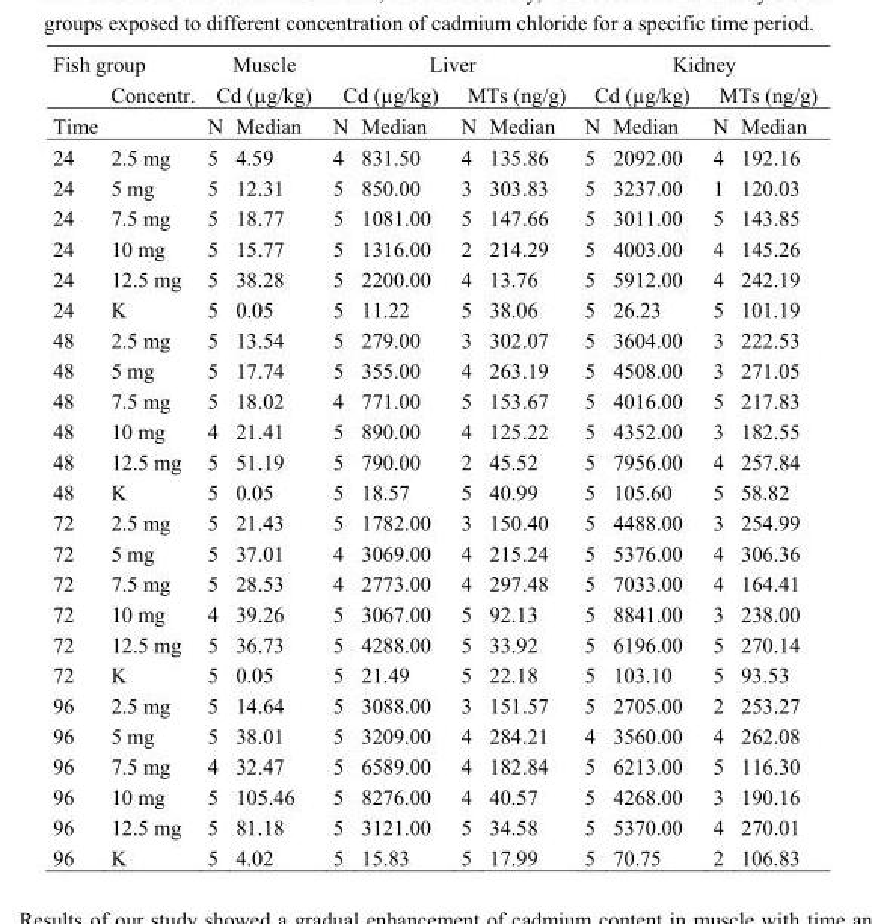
<table><thead><tr><td colspan="2">Fish group</td><td rowspan="2" colspan="2">Muscle Cd (µg/kg)</td><td colspan="4">Liver</td><td colspan="4">Kidney</td></tr><tr><td rowspan="2">Time</td><td rowspan="2">Concentr.</td><td colspan="2">Cd (µg/kg)</td><td colspan="2">MTs (ng/g)</td><td colspan="2">Cd (µg/kg)</td><td colspan="2">MTs (ng/g)</td></tr><tr><td>N</td><td>Median</td><td>N</td><td>Median</td><td>N</td><td>Median</td><td>N</td><td>Median</td><td>N</td><td>Median</td></tr></thead><tbody><tr><td>24</td><td>2.5 mg</td><td>5</td><td>4.59</td><td>4</td><td>831.50</td><td>4</td><td>135.86</td><td>5</td><td>2092.00</td><td>4</td><td>192.16</td></tr><tr><td>24</td><td>5 mg</td><td>5</td><td>12.31</td><td>5</td><td>850.00</td><td>3</td><td>303.83</td><td>5</td><td>3237.00</td><td>1</td><td>120.03</td></tr><tr><td>24</td><td>7.5 mg</td><td>5</td><td>18.77</td><td>5</td><td>1081.00</td><td>5</td><td>147.66</td><td>5</td><td>3011.00</td><td>5</td><td>143.85</td></tr><tr><td>24</td><td>10 mg</td><td>5</td><td>15.77</td><td>5</td><td>1316.00</td><td>2</td><td>214.29</td><td>5</td><td>4003.00</td><td>4</td><td>145.26</td></tr><tr><td>24</td><td>12.5 mg</td><td>5</td><td>38.28</td><td>5</td><td>2200.00</td><td>4</td><td>13.76</td><td>5</td><td>5912.00</td><td>4</td><td>242.19</td></tr><tr><td>24</td><td>K</td><td>5</td><td>0.05</td><td>5</td><td>11.22</td><td>5</td><td>38.06</td><td>5</td><td>26.23</td><td>5</td><td>101.19</td></tr><tr><td>48</td><td>2.5 mg</td><td>5</td><td>13.54</td><td>5</td><td>279.00</td><td>3</td><td>302.07</td><td>5</td><td>3604.00</td><td>3</td><td>222.53</td></tr><tr><td>48</td><td>5 mg</td><td>5</td><td>17.74</td><td>5</td><td>355.00</td><td>4</td><td>263.19</td><td>5</td><td>4508.00</td><td>3</td><td>271.05</td></tr><tr><td>48</td><td>7.5 mg</td><td>5</td><td>18.02</td><td>4</td><td>771.00</td><td>5</td><td>153.67</td><td>5</td><td>4016.00</td><td>5</td><td>217.83</td></tr><tr><td>48</td><td>10 mg</td><td>4</td><td>21.41</td><td>5</td><td>890.00</td><td>4</td><td>125.22</td><td>5</td><td>4352.00</td><td>3</td><td>182.55</td></tr><tr><td>48</td><td>12.5 mg</td><td>5</td><td>51.19</td><td>5</td><td>790.00</td><td>2</td><td>45.52</td><td>5</td><td>7956.00</td><td>4</td><td>257.84</td></tr><tr><td>48</td><td>K</td><td>5</td><td>0.05</td><td>5</td><td>18.57</td><td>5</td><td>40.99</td><td>5</td><td>105.60</td><td>5</td><td>58.82</td></tr><tr><td>72</td><td>2.5 mg</td><td>5</td><td>21.43</td><td>5</td><td>1782.00</td><td>3</td><td>150.40</td><td>5</td><td>4488.00</td><td>3</td><td>254.99</td></tr><tr><td>72</td><td>5 mg</td><td>5</td><td>37.01</td><td>4</td><td>3069.00</td><td>4</td><td>215.24</td><td>5</td><td>5376.00</td><td>4</td><td>306.36</td></tr><tr><td>72</td><td>7.5 mg</td><td>5</td><td>28.53</td><td>4</td><td>2773.00</td><td>4</td><td>297.48</td><td>5</td><td>7033.00</td><td>4</td><td>164.41</td></tr><tr><td>72</td><td>10 mg</td><td>4</td><td>39.26</td><td>5</td><td>3067.00</td><td>5</td><td>92.13</td><td>5</td><td>8841.00</td><td>3</td><td>238.00</td></tr><tr><td>72</td><td>12.5 mg</td><td>5</td><td>36.73</td><td>5</td><td>4288.00</td><td>5</td><td>33.92</td><td>5</td><td>6196.00</td><td>5</td><td>270.14</td></tr><tr><td>72</td><td>K</td><td>5</td><td>0.05</td><td>5</td><td>21.49</td><td>5</td><td>22.18</td><td>5</td><td>103.10</td><td>5</td><td>93.53</td></tr><tr><td>96</td><td>2.5 mg</td><td>5</td><td>14.64</td><td>5</td><td>3088.00</td><td>3</td><td>151.57</td><td>5</td><td>2705.00</td><td>2</td><td>253.27</td></tr><tr><td>96</td><td>5 mg</td><td>5</td><td>38.01</td><td>5</td><td>3209.00</td><td>4</td><td>284.21</td><td>4</td><td>3560.00</td><td>4</td><td>262.08</td></tr><tr><td>96</td><td>7.5 mg</td><td>4</td><td>32.47</td><td>5</td><td>6589.00</td><td>4</td><td>182.84</td><td>5</td><td>6213.00</td><td>5</td><td>116.30</td></tr><tr><td>96</td><td>10 mg</td><td>5</td><td>105.46</td><td>5</td><td>8276.00</td><td>4</td><td>40.57</td><td>5</td><td>4268.00</td><td>3</td><td>190.16</td></tr><tr><td>96</td><td>12.5 mg</td><td>5</td><td>81.18</td><td>5</td><td>3121.00</td><td>5</td><td>34.58</td><td>5</td><td>5370.00</td><td>4</td><td>270.01</td></tr><tr><td>96</td><td>K</td><td>5</td><td>4.02</td><td>5</td><td>15.83</td><td>5</td><td>17.99</td><td>5</td><td>70.75</td><td>2</td><td>106.83</td></tr></tbody></table>